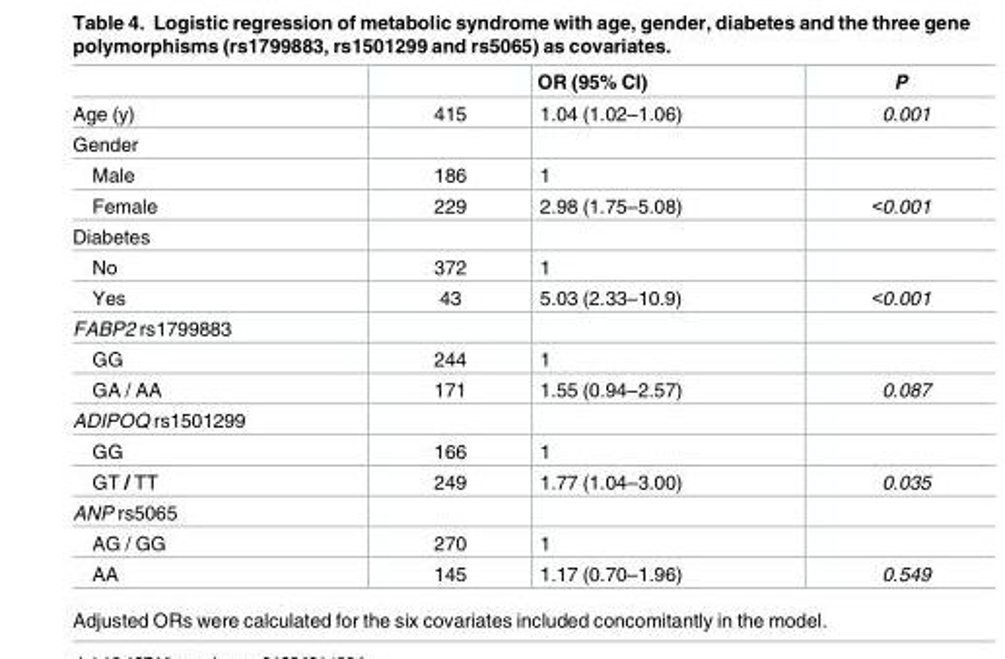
<table><thead><tr><td></td><td></td><td>OR (95% CI)</td><td>P</td></tr></thead><tbody><tr><td>Age (y)</td><td>415</td><td>1.04 (1.02–1.06)</td><td>0.001</td></tr><tr><td colspan="4">Gender</td></tr><tr><td>Male</td><td>186</td><td>1</td><td></td></tr><tr><td>Female</td><td>229</td><td>2.98 (1.75–5.08)</td><td>&lt;0.001</td></tr><tr><td colspan="4">Diabetes</td></tr><tr><td>No</td><td>372</td><td>1</td><td></td></tr><tr><td>Yes</td><td>43</td><td>5.03 (2.33–10.9)</td><td>&lt;0.001</td></tr><tr><td colspan="4">FABP2 rs1799883</td></tr><tr><td>GG</td><td>244</td><td>1</td><td></td></tr><tr><td>GA / AA</td><td>171</td><td>1.55 (0.94–2.57)</td><td>0.087</td></tr><tr><td colspan="4">ADIPOQ rs1501299</td></tr><tr><td>GG</td><td>166</td><td>1</td><td></td></tr><tr><td>GT / TT</td><td>249</td><td>1.77 (1.04–3.00)</td><td>0.035</td></tr><tr><td colspan="4">ANP rs5065</td></tr><tr><td>AG / GG</td><td>270</td><td>1</td><td></td></tr><tr><td>AA</td><td>145</td><td>1.17 (0.70–1.96)</td><td>0.549</td></tr></tbody></table>